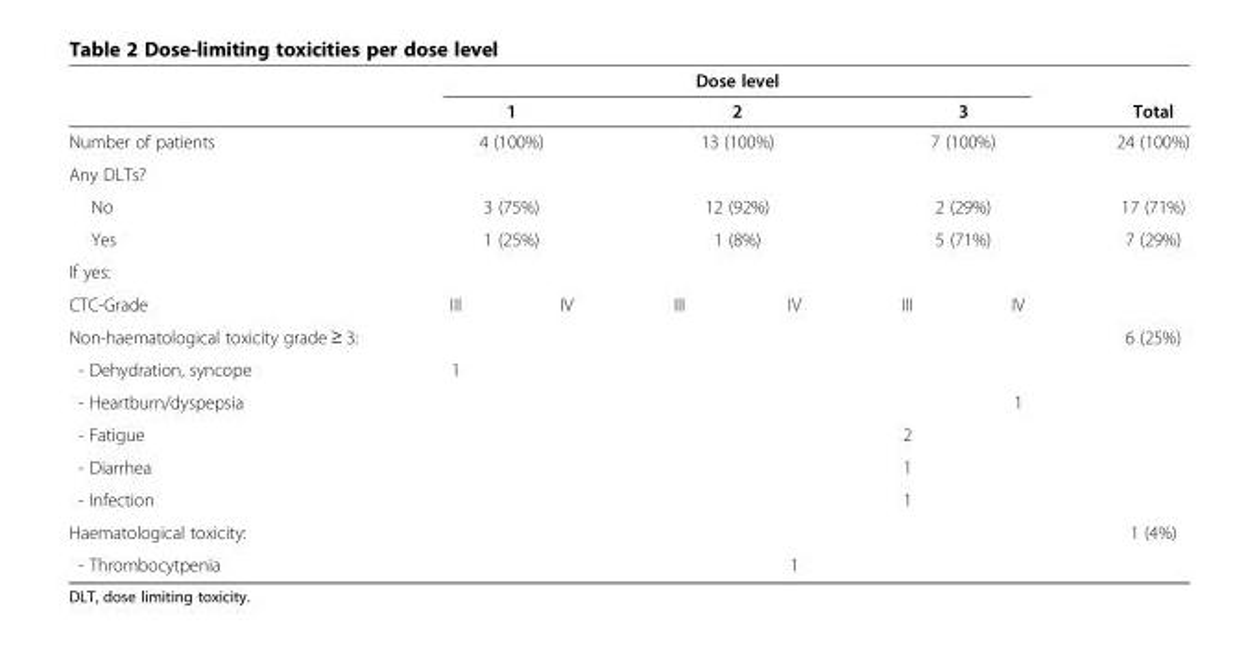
<table><thead><tr><td rowspan="2"></td><td colspan="6">Dose level</td><td rowspan="2">Total</td></tr><tr><td colspan="2">1</td><td colspan="2">2</td><td colspan="2">3</td></tr></thead><tbody><tr><td>Number of patients</td><td colspan="2">4 (100%)</td><td colspan="2">13 (100%)</td><td colspan="2">7 (100%)</td><td>24 (100%)</td></tr><tr><td colspan="8">Any DLTs?</td></tr><tr><td>No</td><td colspan="2">3 (75%)</td><td colspan="2">12 (92%)</td><td colspan="2">2 (29%)</td><td>17 (71%)</td></tr><tr><td>Yes</td><td colspan="2">1 (25%)</td><td colspan="2">1 (8%)</td><td colspan="2">5 (71%)</td><td>7 (29%)</td></tr><tr><td colspan="8">If yes:</td></tr><tr><td>CTC-Grade</td><td>III</td><td>IV</td><td>III</td><td>IV</td><td>III</td><td>IV</td><td></td></tr><tr><td>Non-haematological toxicity grade ≥ 3:</td><td></td><td></td><td></td><td></td><td></td><td></td><td>6 (25%)</td></tr><tr><td>- Dehydration, syncope</td><td>1</td><td></td><td></td><td></td><td></td><td></td><td></td></tr><tr><td>- Heartburn/dyspepsia</td><td></td><td></td><td></td><td></td><td></td><td>1</td><td></td></tr><tr><td>- Fatigue</td><td></td><td></td><td></td><td></td><td>2</td><td></td><td></td></tr><tr><td>- Diarrhea</td><td></td><td></td><td></td><td></td><td>1</td><td></td><td></td></tr><tr><td>- Infection</td><td></td><td></td><td></td><td></td><td>1</td><td></td><td></td></tr><tr><td>Haematological toxicity:</td><td></td><td></td><td></td><td></td><td></td><td></td><td>1 (4%)</td></tr><tr><td>- Thrombocytpenia</td><td></td><td></td><td></td><td>1</td><td></td><td></td><td></td></tr></tbody></table>